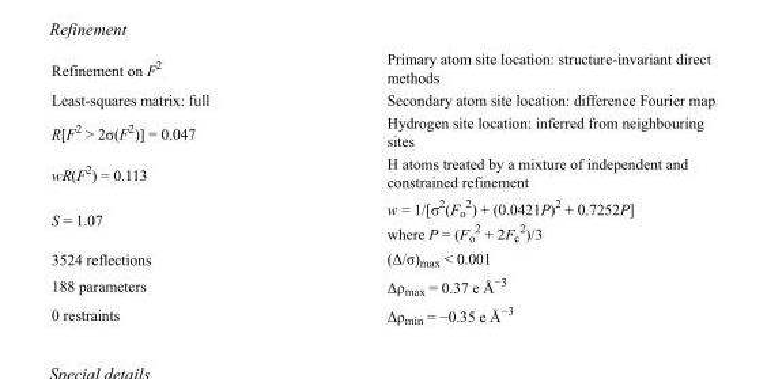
<table><tbody><tr><td>Refinement on F<sup>2</sup></td><td>Primary atom site location: structure-invariant direct methods</td></tr><tr><td>Least-squares matrix: full</td><td>Secondary atom site location: difference Fourier map</td></tr><tr><td>R[F<sup>2</sup> &gt; 2σ(F<sup>2</sup>)] = 0.047</td><td>Hydrogen site location: inferred from neighbouring sites</td></tr><tr><td>wR(F<sup>2</sup>) = 0.113</td><td>H atoms treated by a mixture of independent and constrained refinement</td></tr><tr><td>S = 1.07</td><td>w = 1/[σ<sup>2</sup>(F<sub>o</sub> <sup>2</sup>) + (0.0421P)<sup>2</sup> + 0.7252P] where P = (F<sub>o</sub> <sup>2</sup> + 2F<sub>c</sub> <sup>2</sup>)/3</td></tr><tr><td>3524 reflections</td><td>(Δ/σ)<sub>max</sub> &lt; 0.001</td></tr><tr><td>188 parameters</td><td>Δρ<sub>max</sub> = 0.37 e Å<sup>−3</sup></td></tr><tr><td>0 restraints</td><td>Δρ<sub>min</sub> = −0.35 e Å<sup>−3</sup></td></tr></tbody></table>